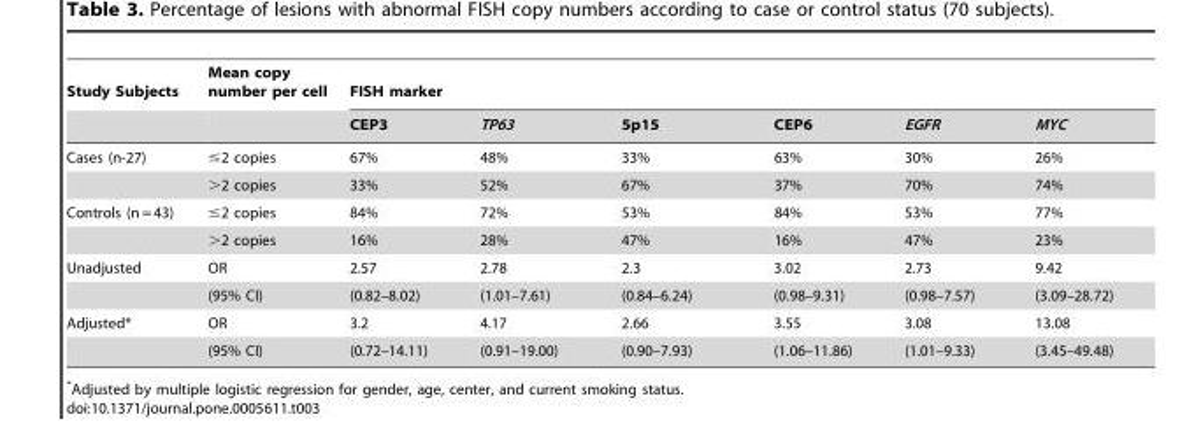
<table><thead><tr><td rowspan="2">Study Subjects</td><td rowspan="2">Mean copy number per cell</td><td colspan="6">FISH marker</td></tr><tr><td>CEP3</td><td>TP63</td><td>5p15</td><td>CEP6</td><td>EGFR</td><td>MYC</td></tr></thead><tbody><tr><td rowspan="2">Cases (n-27)</td><td>≤2 copies</td><td>67%</td><td>48%</td><td>33%</td><td>63%</td><td>30%</td><td>26%</td></tr><tr><td>&gt;2 copies</td><td>33%</td><td>52%</td><td>67%</td><td>37%</td><td>70%</td><td>74%</td></tr><tr><td rowspan="2">Controls (n = 43)</td><td>≤2 copies</td><td>84%</td><td>72%</td><td>53%</td><td>84%</td><td>53%</td><td>77%</td></tr><tr><td>&gt;2 copies</td><td>16%</td><td>28%</td><td>47%</td><td>16%</td><td>47%</td><td>23%</td></tr><tr><td rowspan="2">Unadjusted</td><td>OR</td><td>2.57</td><td>2.78</td><td>2.3</td><td>3.02</td><td>2.73</td><td>9.42</td></tr><tr><td>(95% CI)</td><td>(0.82–8.02)</td><td>(1.01–7.61)</td><td>(0.84–6.24)</td><td>(0.98–9.31)</td><td>(0.98–7.57)</td><td>(3.09–28.72)</td></tr><tr><td rowspan="2">Adjusted*</td><td>OR</td><td>3.2</td><td>4.17</td><td>2.66</td><td>3.55</td><td>3.08</td><td>13.08</td></tr><tr><td>(95% CI)</td><td>(0.72–14.11)</td><td>(0.91–19.00)</td><td>(0.90–7.93)</td><td>(1.06–11.86)</td><td>(1.01–9.33)</td><td>(3.45–49.48)</td></tr></tbody></table>